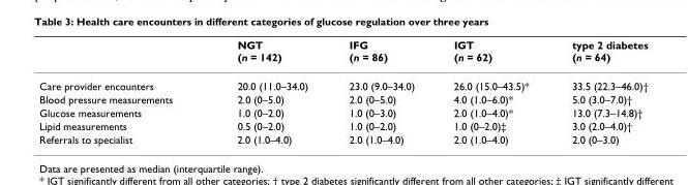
<table><thead><tr><td></td><td>NGT (n = 142)</td><td>IFG (n = 86)</td><td>IGT (n = 62)</td><td>type 2 diabetes (n = 64)</td></tr></thead><tbody><tr><td>Care provider encounters</td><td>20.0 (11.0–34.0)</td><td>23.0 (9.0–34.0)</td><td>26.0 (15.0–43.5)*</td><td>33.5 (22.3–46.0)†</td></tr><tr><td>Blood pressure measurements</td><td>2.0 (0–5.0)</td><td>2.0 (0–5.0)</td><td>4.0 (1.0–6.0)*</td><td>5.0 (3.0–7.0)†</td></tr><tr><td>Glucose measurements</td><td>1.0 (0–2.0)</td><td>1.0 (0–3.0)</td><td>2.0 (1.0–4.0)*</td><td>13.0 (7.3–14.8)†</td></tr><tr><td>Lipid measurements</td><td>0.5 (0–2.0)</td><td>1.0 (0–2.0)</td><td>1.0 (0–2.0)‡</td><td>3.0 (2.0–4.0)†</td></tr><tr><td>Referrals to specialist</td><td>2.0 (1.0–4.0)</td><td>2.0 (1.0–4.0)</td><td>2.0 (1.0–4.0)</td><td>2.0 (0–3.0)</td></tr></tbody></table>